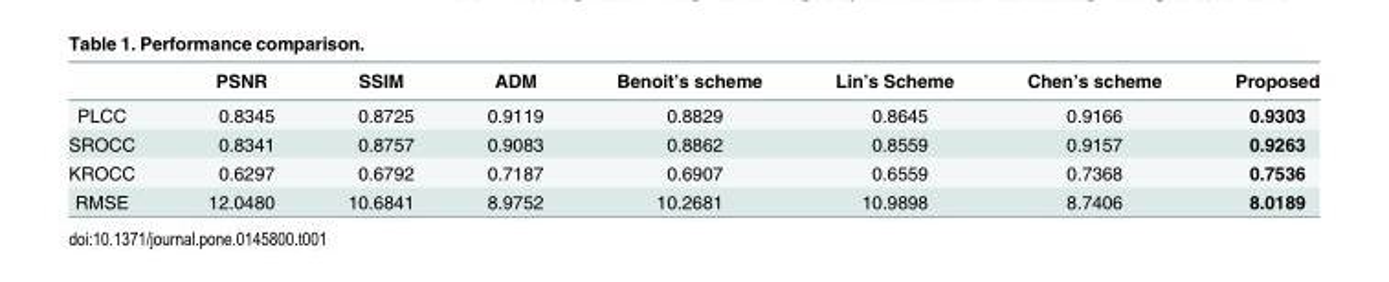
<table><thead><tr><td></td><td>PSNR</td><td>SSIM</td><td>ADM</td><td>Benoit’s scheme</td><td>Lin’s Scheme</td><td>Chen’s scheme</td><td>Proposed</td></tr></thead><tbody><tr><td>PLCC</td><td>0.8345</td><td>0.8725</td><td>0.9119</td><td>0.8829</td><td>0.8645</td><td>0.9166</td><td>0.9303</td></tr><tr><td>SROCC</td><td>0.8341</td><td>0.8757</td><td>0.9083</td><td>0.8862</td><td>0.8559</td><td>0.9157</td><td>0.9263</td></tr><tr><td>KROCC</td><td>0.6297</td><td>0.6792</td><td>0.7187</td><td>0.6907</td><td>0.6559</td><td>0.7368</td><td>0.7536</td></tr><tr><td>RMSE</td><td>12.0480</td><td>10.6841</td><td>8.9752</td><td>10.2681</td><td>10.9898</td><td>8.7406</td><td>8.0189</td></tr></tbody></table>